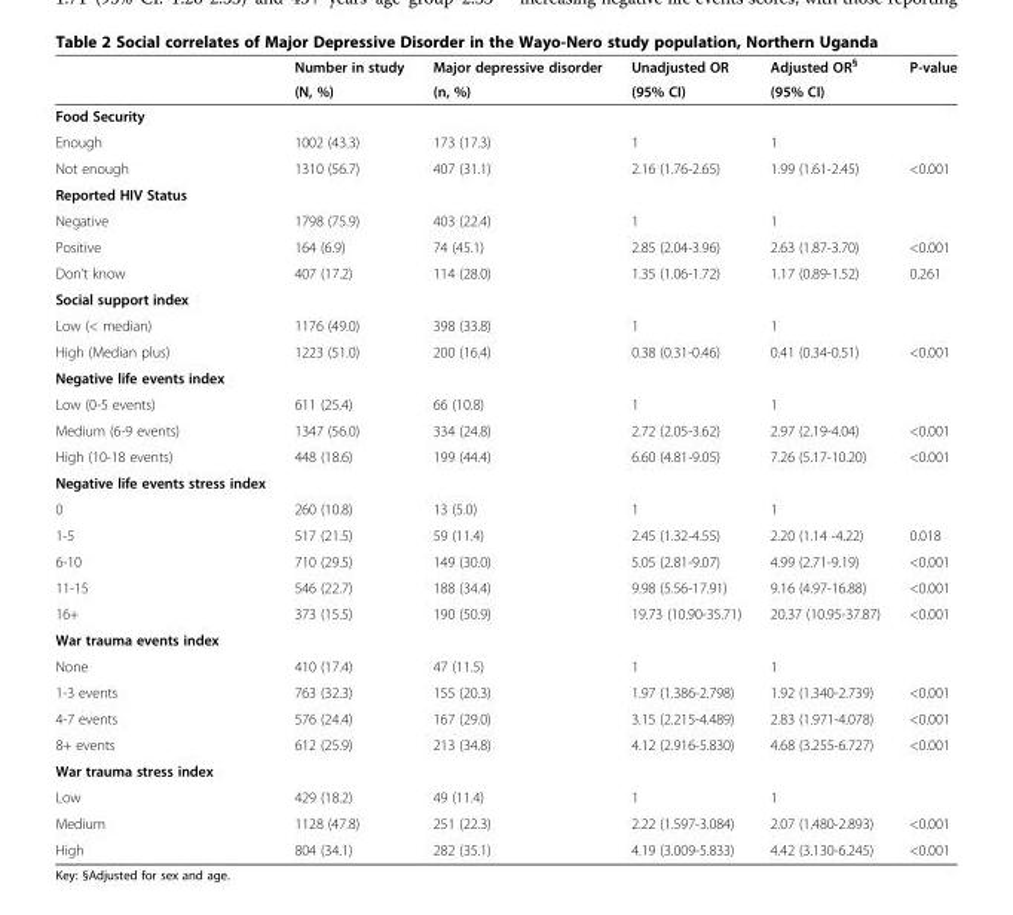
<table><thead><tr><td rowspan="2"></td><td rowspan="2">Number in study (N, %)</td><td rowspan="2">Major depressive disorder (n, %)</td><td rowspan="2">Unadjusted OR (95% CI)</td><td rowspan="2">Adjusted OR<sup>§</sup> (95% CI)</td><td rowspan="2">P-value</td></tr><tr></tr></thead><tbody><tr><td colspan="6">Food Security</td></tr><tr><td>Enough</td><td>1002 (43.3)</td><td>173 (17.3)</td><td>1</td><td>1</td><td></td></tr><tr><td>Not enough</td><td>1310 (56.7)</td><td>407 (31.1)</td><td>2.16 (1.76-2.65)</td><td>1.99 (1.61-2.45)</td><td>&lt;0.001</td></tr><tr><td colspan="6">Reported HIV Status</td></tr><tr><td>Negative</td><td>1798 (75.9)</td><td>403 (22.4)</td><td>1</td><td>1</td><td></td></tr><tr><td>Positive</td><td>164 (6.9)</td><td>74 (45.1)</td><td>2.85 (2.04-3.96)</td><td>2.63 (1.87-3.70)</td><td>&lt;0.001</td></tr><tr><td>Don’t know</td><td>407 (17.2)</td><td>114 (28.0)</td><td>1.35 (1.06-1.72)</td><td>1.17 (0.89-1.52)</td><td>0.261</td></tr><tr><td colspan="6">Social support index</td></tr><tr><td>Low (&lt; median)</td><td>1176 (49.0)</td><td>398 (33.8)</td><td>1</td><td>1</td><td></td></tr><tr><td>High (Median plus)</td><td>1223 (51.0)</td><td>200 (16.4)</td><td>0.38 (0.31-0.46)</td><td>0.41 (0.34-0.51)</td><td>&lt;0.001</td></tr><tr><td colspan="6">Negative life events index</td></tr><tr><td>Low (0-5 events)</td><td>611 (25.4)</td><td>66 (10.8)</td><td>1</td><td>1</td><td></td></tr><tr><td>Medium (6-9 events)</td><td>1347 (56.0)</td><td>334 (24.8)</td><td>2.72 (2.05-3.62)</td><td>2.97 (2.19-4.04)</td><td>&lt;0.001</td></tr><tr><td>High (10-18 events)</td><td>448 (18.6)</td><td>199 (44.4)</td><td>6.60 (4.81-9.05)</td><td>7.26 (5.17-10.20)</td><td>&lt;0.001</td></tr><tr><td colspan="6">Negative life events stress index</td></tr><tr><td>0</td><td>260 (10.8)</td><td>13 (5.0)</td><td>1</td><td>1</td><td></td></tr><tr><td>1-5</td><td>517 (21.5)</td><td>59 (11.4)</td><td>2.45 (1.32-4.55)</td><td>2.20 (1.14 -4.22)</td><td>0.018</td></tr><tr><td>6-10</td><td>710 (29.5)</td><td>149 (30.0)</td><td>5.05 (2.81-9.07)</td><td>4.99 (2.71-9.19)</td><td>&lt;0.001</td></tr><tr><td>11-15</td><td>546 (22.7)</td><td>188 (34.4)</td><td>9.98 (5.56-17.91)</td><td>9.16 (4.97-16.88)</td><td>&lt;0.001</td></tr><tr><td>16+</td><td>373 (15.5)</td><td>190 (50.9)</td><td>19.73 (10.90-35.71)</td><td>20.37 (10.95-37.87)</td><td>&lt;0.001</td></tr><tr><td colspan="6">War trauma events index</td></tr><tr><td>None</td><td>410 (17.4)</td><td>47 (11.5)</td><td>1</td><td>1</td><td></td></tr><tr><td>1-3 events</td><td>763 (32.3)</td><td>155 (20.3)</td><td>1.97 (1.386-2.798)</td><td>1.92 (1.340-2.739)</td><td>&lt;0.001</td></tr><tr><td>4-7 events</td><td>576 (24.4)</td><td>167 (29.0)</td><td>3.15 (2.215-4.489)</td><td>2.83 (1.971-4.078)</td><td>&lt;0.001</td></tr><tr><td>8+ events</td><td>612 (25.9)</td><td>213 (34.8)</td><td>4.12 (2.916-5.830)</td><td>4.68 (3.255-6.727)</td><td>&lt;0.001</td></tr><tr><td colspan="6">War trauma stress index</td></tr><tr><td>Low</td><td>429 (18.2)</td><td>49 (11.4)</td><td>1</td><td>1</td><td></td></tr><tr><td>Medium</td><td>1128 (47.8)</td><td>251 (22.3)</td><td>2.22 (1.597-3.084)</td><td>2.07 (1.480-2.893)</td><td>&lt;0.001</td></tr><tr><td>High</td><td>804 (34.1)</td><td>282 (35.1)</td><td>4.19 (3.009-5.833)</td><td>4.42 (3.130-6.245)</td><td>&lt;0.001</td></tr></tbody></table>